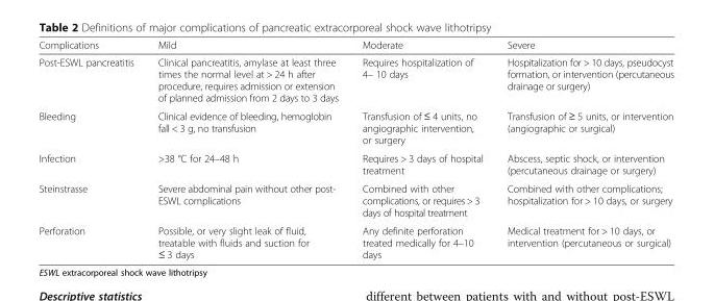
<table><thead><tr><td>Complications</td><td>Mild</td><td>Moderate</td><td>Severe</td></tr></thead><tbody><tr><td>Post-ESWL pancreatitis</td><td>Clinical pancreatitis, amylase at least three times the normal level at &gt; 24 h after procedure, requires admission or extension of planned admission from 2 days to 3 days</td><td>Requires hospitalization of 4– 10 days</td><td>Hospitalization for &gt; 10 days, pseudocyst formation, or intervention (percutaneous drainage or surgery)</td></tr><tr><td>Bleeding</td><td>Clinical evidence of bleeding, hemoglobin fall &lt; 3 g, no transfusion</td><td>Transfusion of ≤ 4 units, no angiographic intervention, or surgery</td><td>Transfusion of ≥ 5 units, or intervention (angiographic or surgical)</td></tr><tr><td>Infection</td><td>&gt;38 °C for 24–48 h</td><td>Requires &gt; 3 days of hospital treatment</td><td>Abscess, septic shock, or intervention (percutaneous drainage or surgery)</td></tr><tr><td>Steinstrasse</td><td>Severe abdominal pain without other post- ESWL complications</td><td>Combined with other complications, or requires &gt; 3 days of hospital treatment</td><td>Combined with other complications; hospitalization for &gt; 10 days, or surgery</td></tr><tr><td>Perforation</td><td>Possible, or very slight leak of fluid, treatable with fluids and suction for ≤ 3 days</td><td>Any definite perforation treated medically for 4–10 days</td><td>Medical treatment for &gt; 10 days, or intervention (percutaneous or surgical)</td></tr></tbody></table>